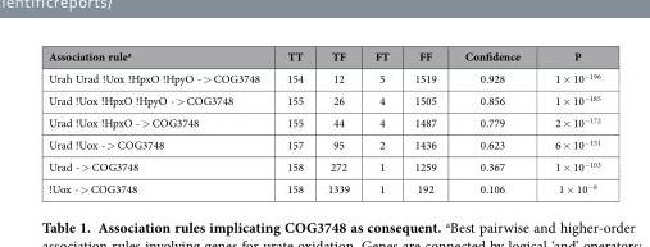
<table><thead><tr><td>Association rule<sup>a</sup></td><td>TT</td><td>TF</td><td>FT</td><td>FF</td><td>Confidence</td><td>P</td></tr></thead><tbody><tr><td>Urah Urad !Uox !HpxO !HpyO - &gt; COG3748</td><td>154</td><td>12</td><td>5</td><td>1519</td><td>0.928</td><td>1 × 10<sup>−196</sup></td></tr><tr><td>Urad !Uox !HpxO !HpyO - &gt; COG3748</td><td>155</td><td>26</td><td>4</td><td>1505</td><td>0.856</td><td>1 × 10<sup>−185</sup></td></tr><tr><td>Urad !Uox !HpxO - &gt; COG3748</td><td>155</td><td>44</td><td>4</td><td>1487</td><td>0.779</td><td>2 × 10<sup>−172</sup></td></tr><tr><td>Urad !Uox - &gt; COG3748</td><td>157</td><td>95</td><td>2</td><td>1436</td><td>0.623</td><td>6 × 10<sup>−151</sup></td></tr><tr><td>Urad - &gt; COG3748</td><td>158</td><td>272</td><td>1</td><td>1259</td><td>0.367</td><td>1 × 10<sup>−103</sup></td></tr><tr><td>!Uox - &gt; COG3748</td><td>158</td><td>1339</td><td>1</td><td>192</td><td>0.106</td><td>1 × 10<sup>−8</sup></td></tr></tbody></table>